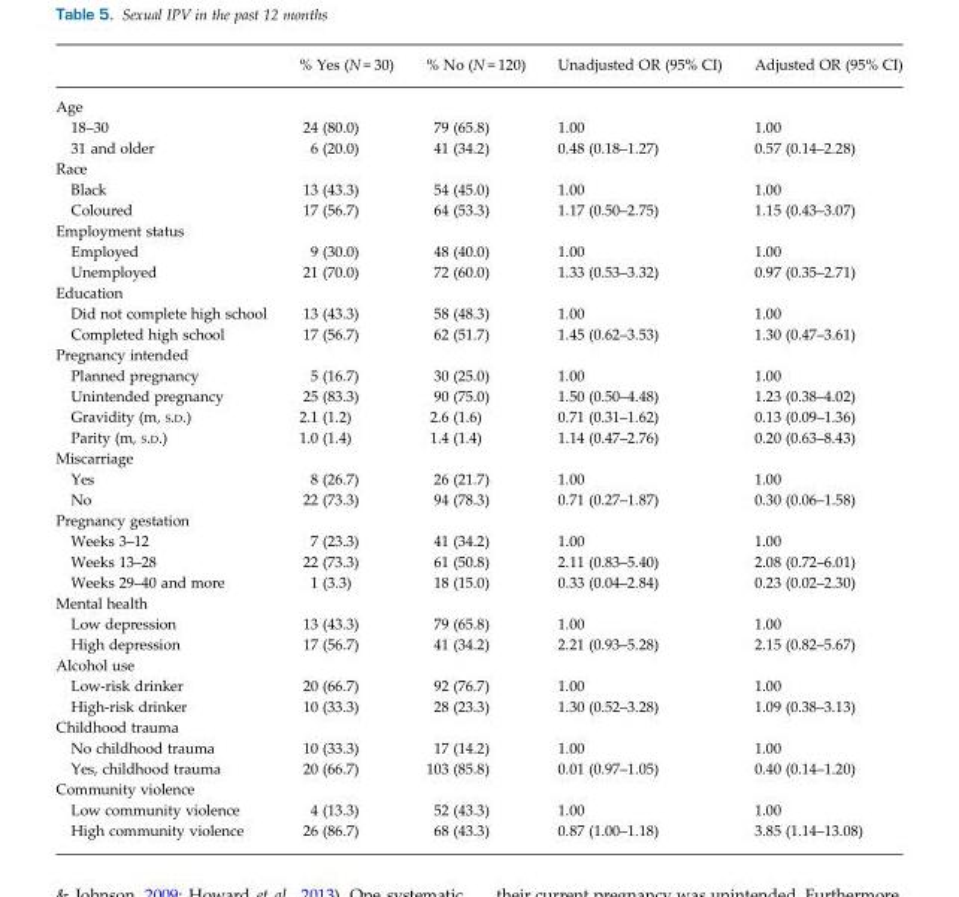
<table><thead><tr><td></td><td>% Yes (N = 30)</td><td>% No (N = 120)</td><td>Unadjusted OR (95% CI)</td><td>Adjusted OR (95% CI)</td></tr></thead><tbody><tr><td colspan="5">Age</td></tr><tr><td>18–30</td><td>24 (80.0)</td><td>79 (65.8)</td><td>1.00</td><td>1.00</td></tr><tr><td>31 and older</td><td>6 (20.0)</td><td>41 (34.2)</td><td>0.48 (0.18–1.27)</td><td>0.57 (0.14–2.28)</td></tr><tr><td colspan="5">Race</td></tr><tr><td>Black</td><td>13 (43.3)</td><td>54 (45.0)</td><td>1.00</td><td>1.00</td></tr><tr><td>Coloured</td><td>17 (56.7)</td><td>64 (53.3)</td><td>1.17 (0.50–2.75)</td><td>1.15 (0.43–3.07)</td></tr><tr><td colspan="5">Employment status</td></tr><tr><td>Employed</td><td>9 (30.0)</td><td>48 (40.0)</td><td>1.00</td><td>1.00</td></tr><tr><td>Unemployed</td><td>21 (70.0)</td><td>72 (60.0)</td><td>1.33 (0.53–3.32)</td><td>0.97 (0.35–2.71)</td></tr><tr><td colspan="5">Education</td></tr><tr><td>Did not complete high school</td><td>13 (43.3)</td><td>58 (48.3)</td><td>1.00</td><td>1.00</td></tr><tr><td>Completed high school</td><td>17 (56.7)</td><td>62 (51.7)</td><td>1.45 (0.62–3.53)</td><td>1.30 (0.47–3.61)</td></tr><tr><td colspan="5">Pregnancy intended</td></tr><tr><td>Planned pregnancy</td><td>5 (16.7)</td><td>30 (25.0)</td><td>1.00</td><td>1.00</td></tr><tr><td>Unintended pregnancy</td><td>25 (83.3)</td><td>90 (75.0)</td><td>1.50 (0.50–4.48)</td><td>1.23 (0.38–4.02)</td></tr><tr><td>Gravidity (m, S.D.)</td><td>2.1 (1.2)</td><td>2.6 (1.6)</td><td>0.71 (0.31–1.62)</td><td>0.13 (0.09–1.36)</td></tr><tr><td>Parity (m, S.D.)</td><td>1.0 (1.4)</td><td>1.4 (1.4)</td><td>1.14 (0.47–2.76)</td><td>0.20 (0.63–8.43)</td></tr><tr><td colspan="5">Miscarriage</td></tr><tr><td>Yes</td><td>8 (26.7)</td><td>26 (21.7)</td><td>1.00</td><td>1.00</td></tr><tr><td>No</td><td>22 (73.3)</td><td>94 (78.3)</td><td>0.71 (0.27–1.87)</td><td>0.30 (0.06–1.58)</td></tr><tr><td colspan="5">Pregnancy gestation</td></tr><tr><td>Weeks 3–12</td><td>7 (23.3)</td><td>41 (34.2)</td><td>1.00</td><td>1.00</td></tr><tr><td>Weeks 13–28</td><td>22 (73.3)</td><td>61 (50.8)</td><td>2.11 (0.83–5.40)</td><td>2.08 (0.72–6.01)</td></tr><tr><td>Weeks 29–40 and more</td><td>1 (3.3)</td><td>18 (15.0)</td><td>0.33 (0.04–2.84)</td><td>0.23 (0.02–2.30)</td></tr><tr><td colspan="5">Mental health</td></tr><tr><td>Low depression</td><td>13 (43.3)</td><td>79 (65.8)</td><td>1.00</td><td>1.00</td></tr><tr><td>High depression</td><td>17 (56.7)</td><td>41 (34.2)</td><td>2.21 (0.93–5.28)</td><td>2.15 (0.82–5.67)</td></tr><tr><td colspan="5">Alcohol use</td></tr><tr><td>Low-risk drinker</td><td>20 (66.7)</td><td>92 (76.7)</td><td>1.00</td><td>1.00</td></tr><tr><td>High-risk drinker</td><td>10 (33.3)</td><td>28 (23.3)</td><td>1.30 (0.52–3.28)</td><td>1.09 (0.38–3.13)</td></tr><tr><td colspan="5">Childhood trauma</td></tr><tr><td>No childhood trauma</td><td>10 (33.3)</td><td>17 (14.2)</td><td>1.00</td><td>1.00</td></tr><tr><td>Yes, childhood trauma</td><td>20 (66.7)</td><td>103 (85.8)</td><td>0.01 (0.97–1.05)</td><td>0.40 (0.14–1.20)</td></tr><tr><td colspan="5">Community violence</td></tr><tr><td>Low community violence</td><td>4 (13.3)</td><td>52 (43.3)</td><td>1.00</td><td>1.00</td></tr><tr><td>High community violence</td><td>26 (86.7)</td><td>68 (43.3)</td><td>0.87 (1.00–1.18)</td><td>3.85 (1.14–13.08)</td></tr></tbody></table>